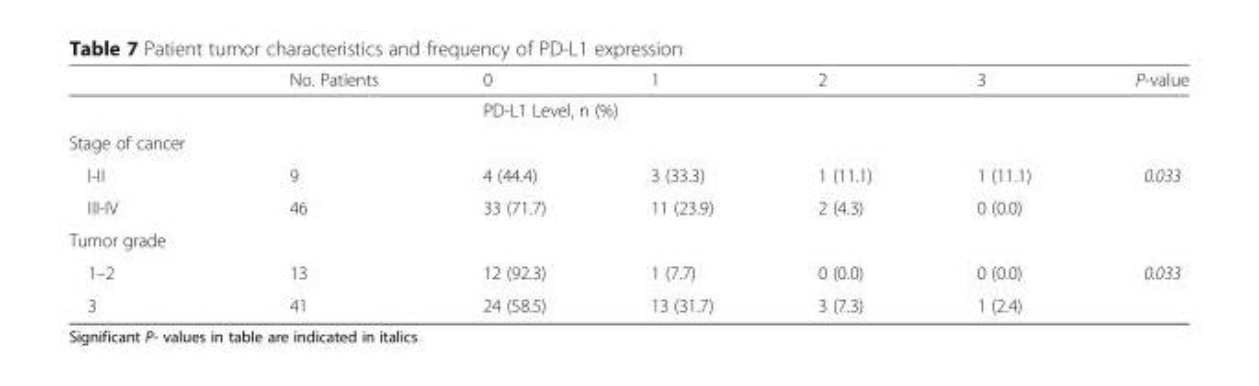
<table><thead><tr><td></td><td>No. Patients</td><td>0</td><td>1</td><td>2</td><td>3</td><td>P-value</td></tr></thead><tbody><tr><td></td><td></td><td colspan="4">PD-L1 Level, n (%)</td><td></td></tr><tr><td colspan="7">Stage of cancer</td></tr><tr><td>I-II</td><td>9</td><td>4 (44.4)</td><td>3 (33.3)</td><td>1 (11.1)</td><td>1 (11.1)</td><td rowspan="2">0.033</td></tr><tr><td>III-IV</td><td>46</td><td>33 (71.7)</td><td>11 (23.9)</td><td>2 (4.3)</td><td>0 (0.0)</td></tr><tr><td colspan="7">Tumor grade</td></tr><tr><td>1–2</td><td>13</td><td>12 (92.3)</td><td>1 (7.7)</td><td>0 (0.0)</td><td>0 (0.0)</td><td rowspan="2">0.033</td></tr><tr><td>3</td><td>41</td><td>24 (58.5)</td><td>13 (31.7)</td><td>3 (7.3)</td><td>1 (2.4)</td></tr></tbody></table>